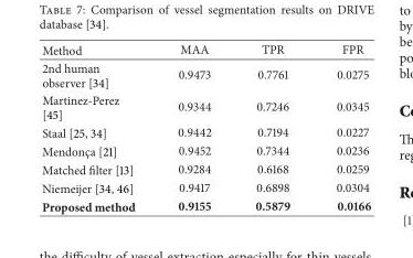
<table><thead><tr><td>Method</td><td>MAA</td><td>TPR</td><td>FPR</td></tr></thead><tbody><tr><td>2nd human observer [34]</td><td>0.9473</td><td>0.7761</td><td>0.0275</td></tr><tr><td>Martinez-Perez [45]</td><td>0.9344</td><td>0.7246</td><td>0.0345</td></tr><tr><td>Staal [25, 34]</td><td>0.9442</td><td>0.7194</td><td>0.0227</td></tr><tr><td>Mendonc¸a [21]</td><td>0.9452</td><td>0.7344</td><td>0.0236</td></tr><tr><td>Matched filter [13]</td><td>0.9284</td><td>0.6168</td><td>0.0259</td></tr><tr><td>Niemeijer [34, 46]</td><td>0.9417</td><td>0.6898</td><td>0.0304</td></tr><tr><td>Proposed method</td><td>0.9155</td><td>0.5879</td><td>0.0166</td></tr></tbody></table>